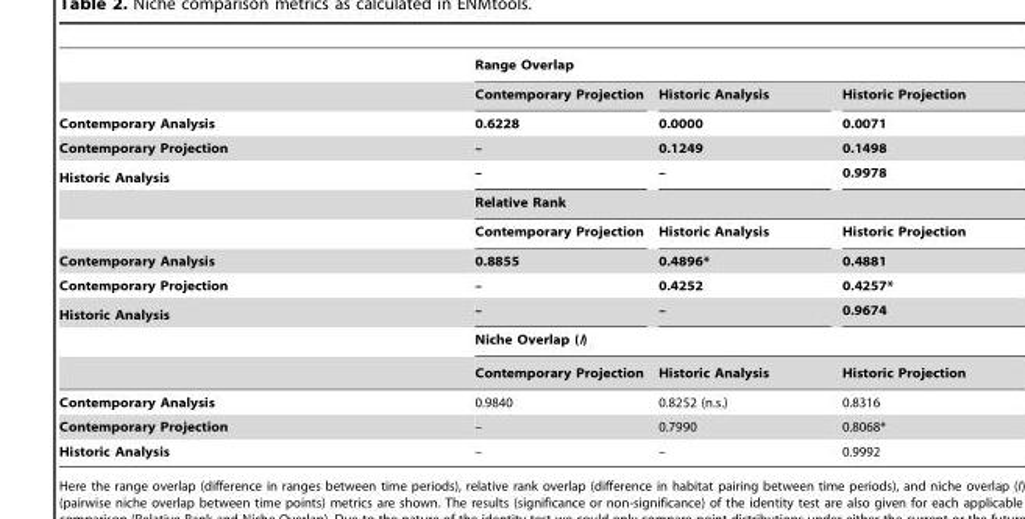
<table><thead><tr><td rowspan="12">Contemporary Analysis Contemporary Projection Historic Analysis Contemporary Analysis Contemporary Projection Historic Analysis</td><td colspan="3">Range Overlap</td></tr><tr><td rowspan="4">Contemporary Projection 0.6228 – –</td><td rowspan="4">Historic Analysis 0.0000 0.1249 –</td><td rowspan="4">Historic Projection 0.0071 0.1498 0.9978</td></tr><tr></tr><tr></tr><tr></tr><tr><td colspan="3">Relative Rank</td></tr><tr><td rowspan="4">Contemporary Projection 0.8855 – –</td><td rowspan="4">Historic Analysis 0.4896* 0.4252 –</td><td rowspan="4">Historic Projection 0.4881 0.4257* 0.9674</td></tr><tr></tr><tr></tr><tr></tr><tr><td colspan="3">Niche Overlap (I)</td></tr><tr><td>Contemporary Projection</td><td>Historic Analysis</td><td>Historic Projection</td></tr></thead><tbody><tr><td>Contemporary Analysis</td><td>0.9840</td><td>0.8252 (n.s.)</td><td>0.8316</td></tr><tr><td>Contemporary Projection</td><td>–</td><td>0.7990</td><td>0.8068*</td></tr><tr><td>Historic Analysis</td><td>–</td><td>–</td><td>0.9992</td></tr></tbody></table>